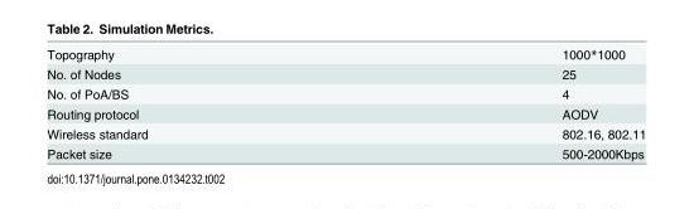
<table><tbody><tr><td>Topography</td><td>1000*1000</td></tr><tr><td>No. of Nodes</td><td>25</td></tr><tr><td>No. of PoA/BS</td><td>4</td></tr><tr><td>Routing protocol</td><td>AODV</td></tr><tr><td>Wireless standard</td><td>802.16, 802.11</td></tr><tr><td>Packet size</td><td>500-2000Kbps</td></tr></tbody></table>